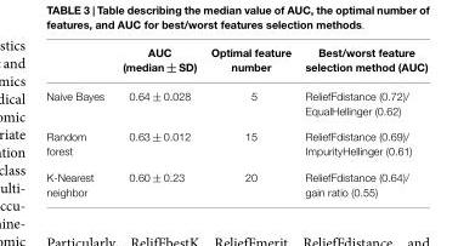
<table><thead><tr><td></td><td>AUC (median ± SD)</td><td>Optimal feature number</td><td>Best/worst feature selection method (AUC)</td></tr></thead><tbody><tr><td>Naive Bayes</td><td>0.64 ± 0.028</td><td>5</td><td>ReliefFdistance (0.72)/ EqualHellinger (0.62)</td></tr><tr><td>Random forest</td><td>0.63 ± 0.012</td><td>15</td><td>ReliefFdistance (0.69)/ ImpurityHellinger (0.61)</td></tr><tr><td>K-Nearest neighbor</td><td>0.60 ± 0.23</td><td>20</td><td>ReliefFdistance (0.64)/ gain ratio (0.55)</td></tr></tbody></table>